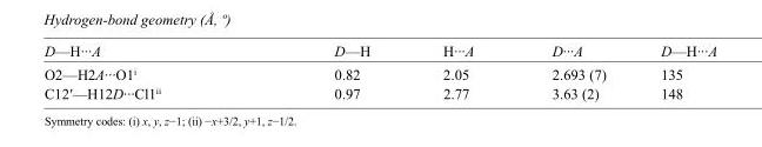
<table><tbody><tr><td>D—H···A</td><td>D—H</td><td>H···A</td><td>D···A</td><td>D—H···A</td></tr><tr><td>O2—H2A···O1<sup>i</sup></td><td>0.82</td><td>2.05</td><td>2.693 (7)</td><td>135</td></tr><tr><td>C12′—H12D···Cl1<sup>ii</sup></td><td>0.97</td><td>2.77</td><td>3.63 (2)</td><td>148</td></tr></tbody></table>